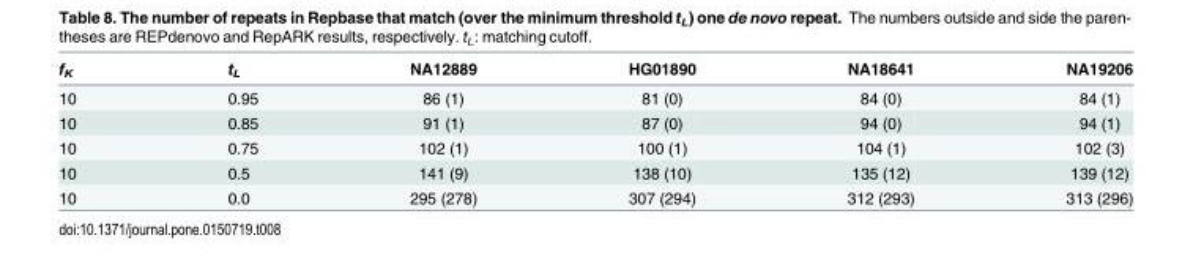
<table><thead><tr><td>f<sub>K</sub></td><td>t<sub>L</sub></td><td>NA12889</td><td>HG01890</td><td>NA18641</td><td>NA19206</td></tr></thead><tbody><tr><td>10</td><td>0.95</td><td>86 (1)</td><td>81 (0)</td><td>84 (0)</td><td>84 (1)</td></tr><tr><td>10</td><td>0.85</td><td>91 (1)</td><td>87 (0)</td><td>94 (0)</td><td>94 (1)</td></tr><tr><td>10</td><td>0.75</td><td>102 (1)</td><td>100 (1)</td><td>104 (1)</td><td>102 (3)</td></tr><tr><td>10</td><td>0.5</td><td>141 (9)</td><td>138 (10)</td><td>135 (12)</td><td>139 (12)</td></tr><tr><td>10</td><td>0.0</td><td>295 (278)</td><td>307 (294)</td><td>312 (293)</td><td>313 (296)</td></tr></tbody></table>